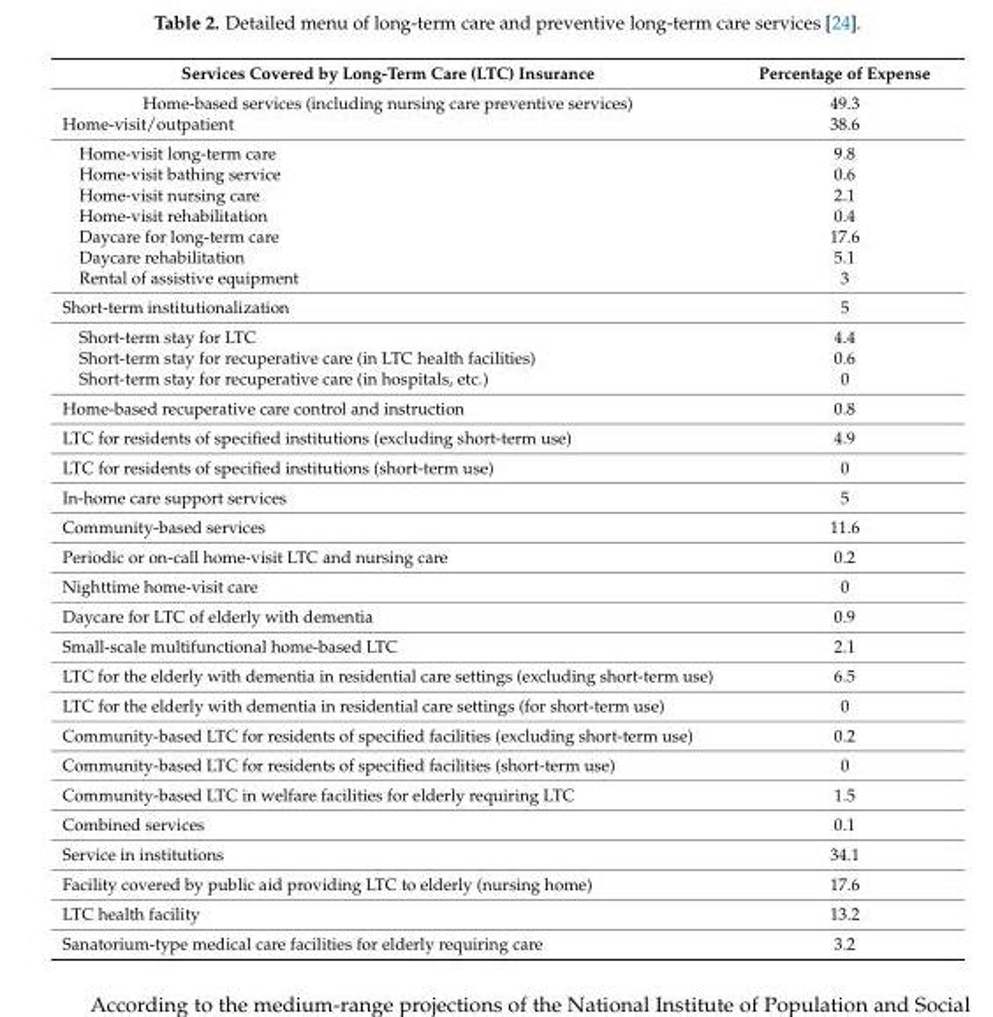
<table><thead><tr><td>Services Covered by Long-Term Care (LTC) Insurance</td><td>Percentage of Expense</td></tr></thead><tbody><tr><td>Home-based services (including nursing care preventive services)</td><td>49.3</td></tr><tr><td>Home-visit/outpatient</td><td>38.6</td></tr><tr><td>Home-visit long-term care</td><td>9.8</td></tr><tr><td>Home-visit bathing service</td><td>0.6</td></tr><tr><td>Home-visit nursing care</td><td>2.1</td></tr><tr><td>Home-visit rehabilitation</td><td>0.4</td></tr><tr><td>Daycare for long-term care</td><td>17.6</td></tr><tr><td>Daycare rehabilitation</td><td>5.1</td></tr><tr><td>Rental of assistive equipment</td><td>3</td></tr><tr><td>Short-term institutionalization</td><td>5</td></tr><tr><td>Short-term stay for LTC</td><td>4.4</td></tr><tr><td>Short-term stay for recuperative care (in LTC health facilities)</td><td>0.6</td></tr><tr><td>Short-term stay for recuperative care (in hospitals, etc.)</td><td>0</td></tr><tr><td>Home-based recuperative care control and instruction</td><td>0.8</td></tr><tr><td>LTC for residents of specified institutions (excluding short-term use)</td><td>4.9</td></tr><tr><td>LTC for residents of specified institutions (short-term use)</td><td>0</td></tr><tr><td>In-home care support services</td><td>5</td></tr><tr><td>Community-based services</td><td>11.6</td></tr><tr><td>Periodic or on-call home-visit LTC and nursing care</td><td>0.2</td></tr><tr><td>Nighttime home-visit care</td><td>0</td></tr><tr><td>Daycare for LTC of elderly with dementia</td><td>0.9</td></tr><tr><td>Small-scale multifunctional home-based LTC</td><td>2.1</td></tr><tr><td>LTC for the elderly with dementia in residential care settings (excluding short-term use)</td><td>6.5</td></tr><tr><td>LTC for the elderly with dementia in residential care settings (for short-term use)</td><td>0</td></tr><tr><td>Community-based LTC for residents of specified facilities (excluding short-term use)</td><td>0.2</td></tr><tr><td>Community-based LTC for residents of specified facilities (short-term use)</td><td>0</td></tr><tr><td>Community-based LTC in welfare facilities for elderly requiring LTC</td><td>1.5</td></tr><tr><td>Combined services</td><td>0.1</td></tr><tr><td>Service in institutions</td><td>34.1</td></tr><tr><td>Facility covered by public aid providing LTC to elderly (nursing home)</td><td>17.6</td></tr><tr><td>LTC health facility</td><td>13.2</td></tr><tr><td>Sanatorium-type medical care facilities for elderly requiring care</td><td>3.2</td></tr></tbody></table>